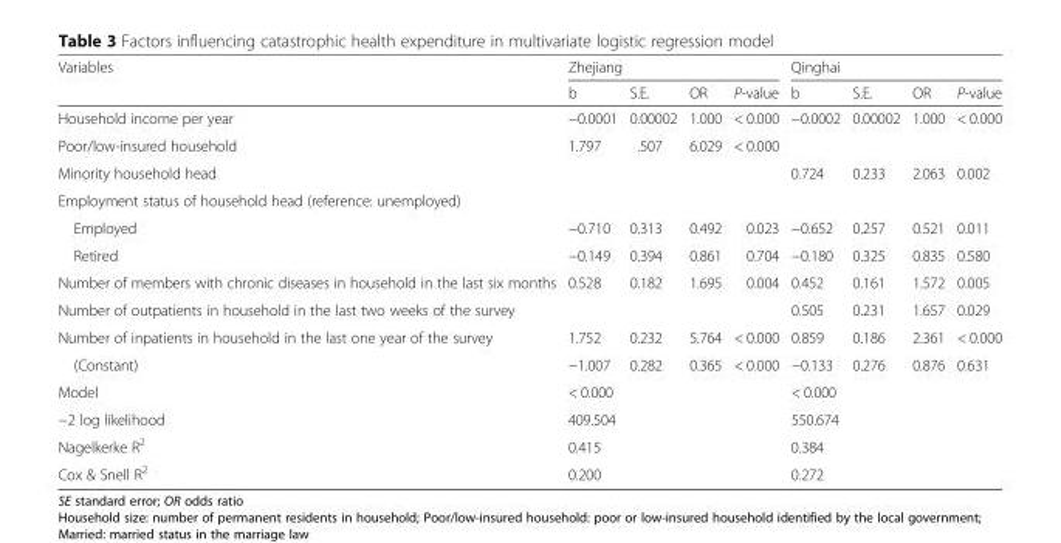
<table><thead><tr><td rowspan="2">Variables</td><td colspan="4">Zhejiang</td><td colspan="4">Qinghai</td></tr><tr><td>b</td><td>S.E.</td><td>OR</td><td>P-value</td><td>b</td><td>S.E.</td><td>OR</td><td>P-value</td></tr></thead><tbody><tr><td>Household income per year</td><td>−0.0001</td><td>0.00002</td><td>1.000</td><td>&lt; 0.000</td><td>−0.0002</td><td>0.00002</td><td>1.000</td><td>&lt; 0.000</td></tr><tr><td>Poor/low-insured household</td><td>1.797</td><td>.507</td><td>6.029</td><td>&lt; 0.000</td><td></td><td></td><td></td><td></td></tr><tr><td>Minority household head</td><td></td><td></td><td></td><td></td><td>0.724</td><td>0.233</td><td>2.063</td><td>0.002</td></tr><tr><td colspan="9">Employment status of household head (reference: unemployed)</td></tr><tr><td>Employed</td><td>−0.710</td><td>0.313</td><td>0.492</td><td>0.023</td><td>−0.652</td><td>0.257</td><td>0.521</td><td>0.011</td></tr><tr><td>Retired</td><td>−0.149</td><td>0.394</td><td>0.861</td><td>0.704</td><td>−0.180</td><td>0.325</td><td>0.835</td><td>0.580</td></tr><tr><td>Number of members with chronic diseases in household in the last six months</td><td>0.528</td><td>0.182</td><td>1.695</td><td>0.004</td><td>0.452</td><td>0.161</td><td>1.572</td><td>0.005</td></tr><tr><td>Number of outpatients in household in the last two weeks of the survey</td><td></td><td></td><td></td><td></td><td>0.505</td><td>0.231</td><td>1.657</td><td>0.029</td></tr><tr><td>Number of inpatients in household in the last one year of the survey</td><td>1.752</td><td>0.232</td><td>5.764</td><td>&lt; 0.000</td><td>0.859</td><td>0.186</td><td>2.361</td><td>&lt; 0.000</td></tr><tr><td>(Constant)</td><td>−1.007</td><td>0.282</td><td>0.365</td><td>&lt; 0.000</td><td>−0.133</td><td>0.276</td><td>0.876</td><td>0.631</td></tr><tr><td>Model</td><td>&lt; 0.000</td><td></td><td></td><td></td><td>&lt; 0.000</td><td></td><td></td><td></td></tr><tr><td>−2 log likelihood</td><td>409.504</td><td></td><td></td><td></td><td>550.674</td><td></td><td></td><td></td></tr><tr><td>Nagelkerke R<sup>2</sup></td><td>0.415</td><td></td><td></td><td></td><td>0.384</td><td></td><td></td><td></td></tr><tr><td>Cox &amp; Snell R<sup>2</sup></td><td>0.200</td><td></td><td></td><td></td><td>0.272</td><td></td><td></td><td></td></tr></tbody></table>